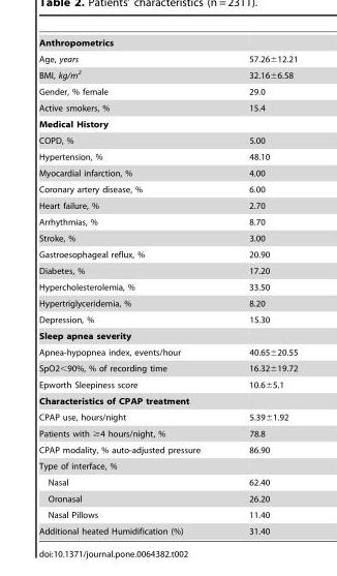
<table><tbody><tr><td colspan="2">Anthropometrics</td></tr><tr><td>Age, years</td><td>57.26±12.21</td></tr><tr><td>BMI, kg/m<sup>2</sup></td><td>32.16±6.58</td></tr><tr><td>Gender, % female</td><td>29.0</td></tr><tr><td>Active smokers, %</td><td>15.4</td></tr><tr><td colspan="2">Medical History</td></tr><tr><td>COPD, %</td><td>5.00</td></tr><tr><td>Hypertension, %</td><td>48.10</td></tr><tr><td>Myocardial infarction, %</td><td>4.00</td></tr><tr><td>Coronary artery disease, %</td><td>6.00</td></tr><tr><td>Heart failure, %</td><td>2.70</td></tr><tr><td>Arrhythmias, %</td><td>8.70</td></tr><tr><td>Stroke, %</td><td>3.00</td></tr><tr><td>Gastroesophageal reflux, %</td><td>20.90</td></tr><tr><td>Diabetes, %</td><td>17.20</td></tr><tr><td>Hypercholesterolemia, %</td><td>33.50</td></tr><tr><td>Hypertriglyceridemia, %</td><td>8.20</td></tr><tr><td>Depression, %</td><td>15.30</td></tr><tr><td colspan="2">Sleep apnea severity</td></tr><tr><td>Apnea-hypopnea index, events/hour</td><td>40.65±20.55</td></tr><tr><td>SpO2&lt;90%, % of recording time</td><td>16.32±19.72</td></tr><tr><td>Epworth Sleepiness score</td><td>10.6±5.1</td></tr><tr><td colspan="2">Characteristics of CPAP treatment</td></tr><tr><td>CPAP use, hours/night</td><td>5.39±1.92</td></tr><tr><td>Patients with ≥4 hours/night, %</td><td>78.8</td></tr><tr><td>CPAP modality, % auto-adjusted pressure</td><td>86.90</td></tr><tr><td colspan="2">Type of interface, %</td></tr><tr><td>Nasal</td><td>62.40</td></tr><tr><td>Oronasal</td><td>26.20</td></tr><tr><td>Nasal Pillows</td><td>11.40</td></tr><tr><td>Additional heated Humidification (%)</td><td>31.40</td></tr></tbody></table>